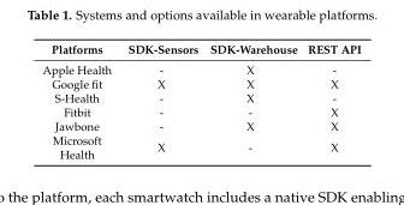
<table><thead><tr><td>Platforms</td><td>SDK-Sensors</td><td>SDK-Warehouse</td><td>REST API</td></tr></thead><tbody><tr><td>Apple Health</td><td>-</td><td>X</td><td>-</td></tr><tr><td>Google fit</td><td>X</td><td>X</td><td>X</td></tr><tr><td>S-Health</td><td>-</td><td>X</td><td>-</td></tr><tr><td>Fitbit</td><td>-</td><td>-</td><td>X</td></tr><tr><td>Jawbone</td><td>-</td><td>X</td><td>X</td></tr><tr><td>Microsoft Health</td><td>X</td><td>-</td><td>X</td></tr></tbody></table>